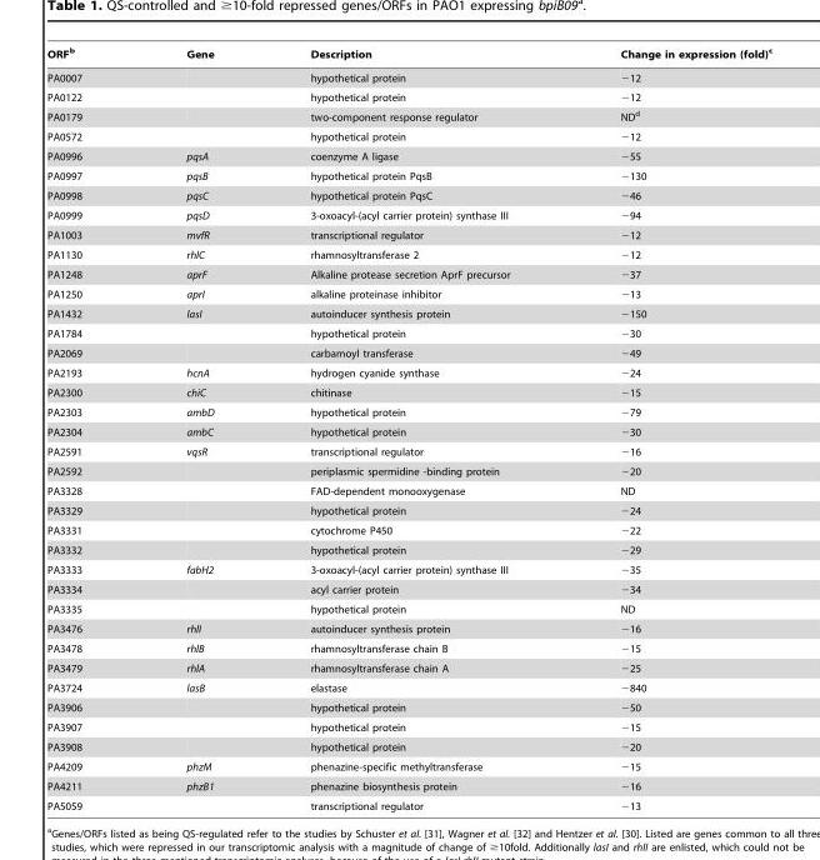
<table><thead><tr><td>ORF<sup>b</sup></td><td>Gene</td><td>Description</td><td>Change in expression (fold)<sup>c</sup></td></tr></thead><tbody><tr><td>PA0007</td><td></td><td>hypothetical protein</td><td>−12</td></tr><tr><td>PA0122</td><td></td><td>hypothetical protein</td><td>−12</td></tr><tr><td>PA0179</td><td></td><td>two-component response regulator</td><td>ND<sup>d</sup></td></tr><tr><td>PA0572</td><td></td><td>hypothetical protein</td><td>−12</td></tr><tr><td>PA0996</td><td>pqsA</td><td>coenzyme A ligase</td><td>−55</td></tr><tr><td>PA0997</td><td>pqsB</td><td>hypothetical protein PqsB</td><td>−130</td></tr><tr><td>PA0998</td><td>pqsC</td><td>hypothetical protein PqsC</td><td>−46</td></tr><tr><td>PA0999</td><td>pqsD</td><td>3-oxoacyl-(acyl carrier protein) synthase III</td><td>−94</td></tr><tr><td>PA1003</td><td>mvfR</td><td>transcriptional regulator</td><td>−12</td></tr><tr><td>PA1130</td><td>rhlC</td><td>rhamnosyltransferase 2</td><td>−12</td></tr><tr><td>PA1248</td><td>aprF</td><td>Alkaline protease secretion AprF precursor</td><td>−37</td></tr><tr><td>PA1250</td><td>aprI</td><td>alkaline proteinase inhibitor</td><td>−13</td></tr><tr><td>PA1432</td><td>lasI</td><td>autoinducer synthesis protein</td><td>−150</td></tr><tr><td>PA1784</td><td></td><td>hypothetical protein</td><td>−30</td></tr><tr><td>PA2069</td><td></td><td>carbamoyl transferase</td><td>−49</td></tr><tr><td>PA2193</td><td>hcnA</td><td>hydrogen cyanide synthase</td><td>−24</td></tr><tr><td>PA2300</td><td>chiC</td><td>chitinase</td><td>−15</td></tr><tr><td>PA2303</td><td>ambD</td><td>hypothetical protein</td><td>−79</td></tr><tr><td>PA2304</td><td>ambC</td><td>hypothetical protein</td><td>−30</td></tr><tr><td>PA2591</td><td>vqsR</td><td>transcriptional regulator</td><td>−16</td></tr><tr><td>PA2592</td><td></td><td>periplasmic spermidine -binding protein</td><td>−20</td></tr><tr><td>PA3328</td><td></td><td>FAD-dependent monooxygenase</td><td>ND</td></tr><tr><td>PA3329</td><td></td><td>hypothetical protein</td><td>−24</td></tr><tr><td>PA3331</td><td></td><td>cytochrome P450</td><td>−22</td></tr><tr><td>PA3332</td><td></td><td>hypothetical protein</td><td>−29</td></tr><tr><td>PA3333</td><td>fabH2</td><td>3-oxoacyl-(acyl carrier protein) synthase III</td><td>−35</td></tr><tr><td>PA3334</td><td></td><td>acyl carrier protein</td><td>−34</td></tr><tr><td>PA3335</td><td></td><td>hypothetical protein</td><td>ND</td></tr><tr><td>PA3476</td><td>rhlI</td><td>autoinducer synthesis protein</td><td>−16</td></tr><tr><td>PA3478</td><td>rhlB</td><td>rhamnosyltransferase chain B</td><td>−15</td></tr><tr><td>PA3479</td><td>rhlA</td><td>rhamnosyltransferase chain A</td><td>−25</td></tr><tr><td>PA3724</td><td>lasB</td><td>elastase</td><td>−840</td></tr><tr><td>PA3906</td><td></td><td>hypothetical protein</td><td>−50</td></tr><tr><td>PA3907</td><td></td><td>hypothetical protein</td><td>−15</td></tr><tr><td>PA3908</td><td></td><td>hypothetical protein</td><td>−20</td></tr><tr><td>PA4209</td><td>phzM</td><td>phenazine-specific methyltransferase</td><td>−15</td></tr><tr><td>PA4211</td><td>phzB1</td><td>phenazine biosynthesis protein</td><td>−16</td></tr><tr><td>PA5059</td><td></td><td>transcriptional regulator</td><td>−13</td></tr></tbody></table>